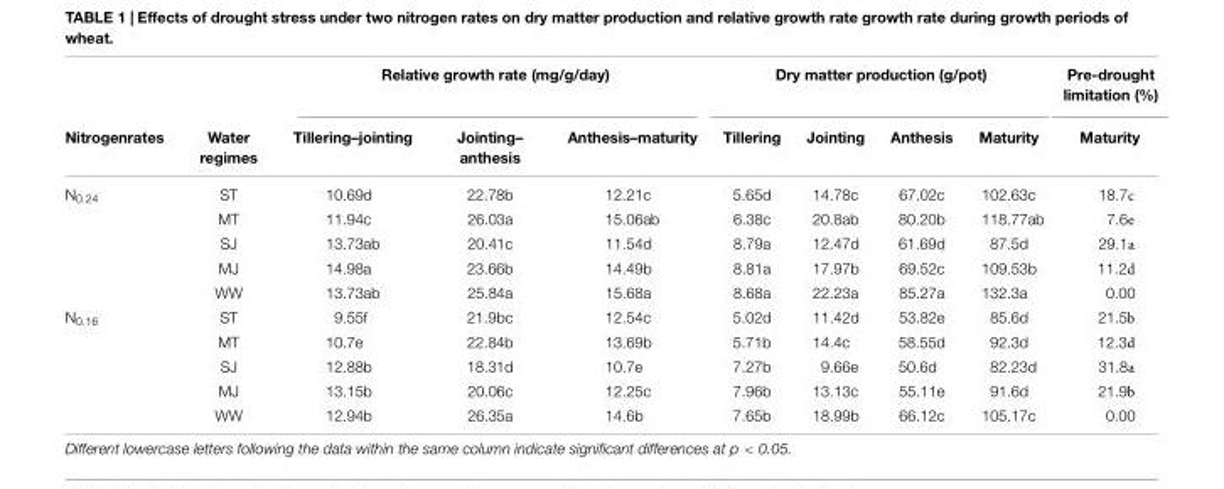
<table><thead><tr><td rowspan="2">Nitrogenrates</td><td rowspan="2">Water regimes</td><td colspan="3">Relative growth rate (mg/g/day)</td><td colspan="4">Dry matter production (g/pot)</td><td rowspan="2">Pre-drought limitation (%) Maturity</td></tr><tr><td>Tillering–jointing</td><td>Jointing– anthesis</td><td>Anthesis–maturity</td><td>Tillering</td><td>Jointing</td><td>Anthesis</td><td>Maturity</td></tr></thead><tbody><tr><td rowspan="5">N<sub>0.24</sub></td><td>ST</td><td>10.69d</td><td>22.78b</td><td>12.21c</td><td>5.65d</td><td>14.78c</td><td>67.02c</td><td>102.63c</td><td>18.7c</td></tr><tr><td>MT</td><td>11.94c</td><td>26.03a</td><td>15.06ab</td><td>6.38c</td><td>20.8ab</td><td>80.20b</td><td>118.77ab</td><td>7.6e</td></tr><tr><td>SJ</td><td>13.73ab</td><td>20.41c</td><td>11.54d</td><td>8.79a</td><td>12.47d</td><td>61.69d</td><td>87.5d</td><td>29.1a</td></tr><tr><td>MJ</td><td>14.98a</td><td>23.66b</td><td>14.49b</td><td>8.81a</td><td>17.97b</td><td>69.52c</td><td>109.53b</td><td>11.2d</td></tr><tr><td>WW</td><td>13.73ab</td><td>25.84a</td><td>15.68a</td><td>8.68a</td><td>22.23a</td><td>85.27a</td><td>132.3a</td><td>0.00</td></tr><tr><td rowspan="5">N<sub>0.16</sub></td><td>ST</td><td>9.55f</td><td>21.9bc</td><td>12.54c</td><td>5.02d</td><td>11.42d</td><td>53.82e</td><td>85.6d</td><td>21.5b</td></tr><tr><td>MT</td><td>10.7e</td><td>22.84b</td><td>13.69b</td><td>5.71b</td><td>14.4c</td><td>58.55d</td><td>92.3d</td><td>12.3d</td></tr><tr><td>SJ</td><td>12.88b</td><td>18.31d</td><td>10.7e</td><td>7.27b</td><td>9.66e</td><td>50.6d</td><td>82.23d</td><td>31.8a</td></tr><tr><td>MJ</td><td>13.15b</td><td>20.06c</td><td>12.25c</td><td>7.96b</td><td>13.13c</td><td>55.11e</td><td>91.6d</td><td>21.9b</td></tr><tr><td>WW</td><td>12.94b</td><td>26.35a</td><td>14.6b</td><td>7.65b</td><td>18.99b</td><td>66.12c</td><td>105.17c</td><td>0.00</td></tr></tbody></table>